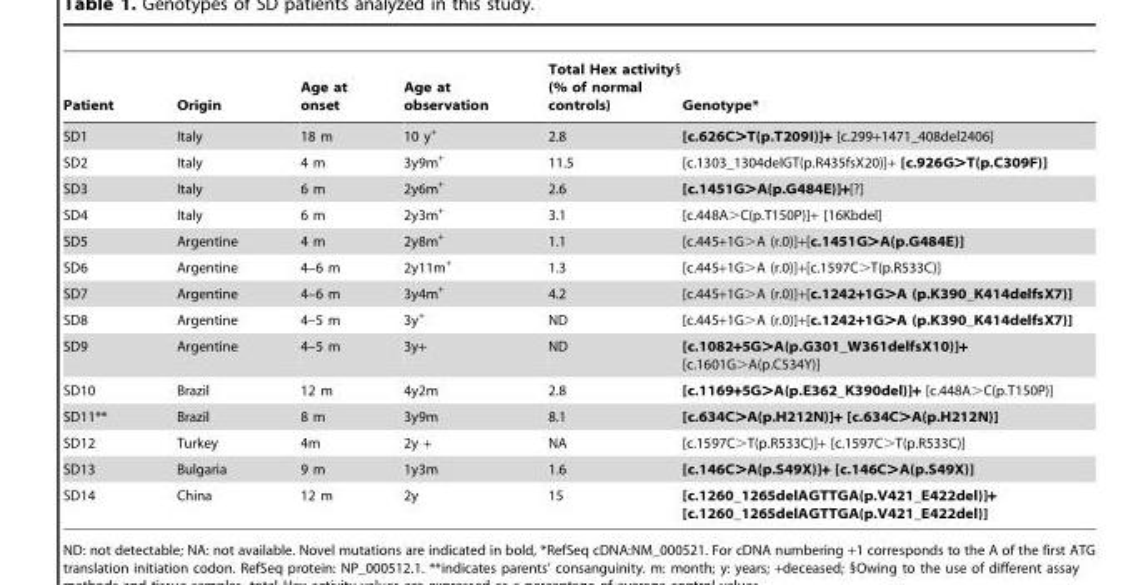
<table><thead><tr><td>Patient</td><td>Origin</td><td>Age at onset</td><td>Age at observation</td><td>Total Hex activity§ (% of normal controls)</td><td>Genotype*</td></tr></thead><tbody><tr><td>SD1</td><td>Italy</td><td>18 m</td><td>10 y<sup>+</sup></td><td>2.8</td><td>[c.626C&gt;T(p.T209I)]+ [c.299+1471_408del2406]</td></tr><tr><td>SD2</td><td>Italy</td><td>4 m</td><td>3y9m<sup>+</sup></td><td>11.5</td><td>[c.1303_1304delGT(p.R435fsX20)]+ [c.926G&gt;T(p.C309F)]</td></tr><tr><td>SD3</td><td>Italy</td><td>6 m</td><td>2y6m<sup>+</sup></td><td>2.6</td><td>[c.1451G&gt;A(p.G484E)]+[?]</td></tr><tr><td>SD4</td><td>Italy</td><td>6 m</td><td>2y3m<sup>+</sup></td><td>3.1</td><td>[c.448A&gt;C(p.T150P)]+ [16Kbdel]</td></tr><tr><td>SD5</td><td>Argentine</td><td>4 m</td><td>2y8m<sup>+</sup></td><td>1.1</td><td>[c.445+1G&gt;A (r.0)]+[c.1451G&gt;A(p.G484E)]</td></tr><tr><td>SD6</td><td>Argentine</td><td>4–6 m</td><td>2y11m<sup>+</sup></td><td>1.3</td><td>[c.445+1G&gt;A (r.0)]+[c.1597C&gt;T(p.R533C)]</td></tr><tr><td>SD7</td><td>Argentine</td><td>4–6 m</td><td>3y4m<sup>+</sup></td><td>4.2</td><td>[c.445+1G&gt;A (r.0)]+[c.1242+1G&gt;A (p.K390_K414delfsX7)]</td></tr><tr><td>SD8</td><td>Argentine</td><td>4–5 m</td><td>3y<sup>+</sup></td><td>ND</td><td>[c.445+1G&gt;A (r.0)]+[c.1242+1G&gt;A (p.K390_K414delfsX7)]</td></tr><tr><td>SD9</td><td>Argentine</td><td>4–5 m</td><td>3y+</td><td>ND</td><td>[c.1082+5G&gt;A(p.G301_W361delfsX10)]+ [c.1601G&gt;A(p.C534Y)]</td></tr><tr><td>SD10</td><td>Brazil</td><td>12 m</td><td>4y2m</td><td>2.8</td><td>[c.1169+5G&gt;A(p.E362_K390del)]+ [c.448A&gt;C(p.T150P)]</td></tr><tr><td>SD11**</td><td>Brazil</td><td>8 m</td><td>3y9m</td><td>8.1</td><td>[c.634C&gt;A(p.H212N)]+ [c.634C&gt;A(p.H212N)]</td></tr><tr><td>SD12</td><td>Turkey</td><td>4m</td><td>2y +</td><td>NA</td><td>[c.1597C&gt;T(p.R533C)]+ [c.1597C&gt;T(p.R533C)]</td></tr><tr><td>SD13</td><td>Bulgaria</td><td>9 m</td><td>1y3m</td><td>1.6</td><td>[c.146C&gt;A(p.S49X)]+ [c.146C&gt;A(p.S49X)]</td></tr><tr><td>SD14</td><td>China</td><td>12 m</td><td>2y</td><td>15</td><td>[c.1260_1265delAGTTGA(p.V421_E422del)]+ [c.1260_1265delAGTTGA(p.V421_E422del)]</td></tr></tbody></table>